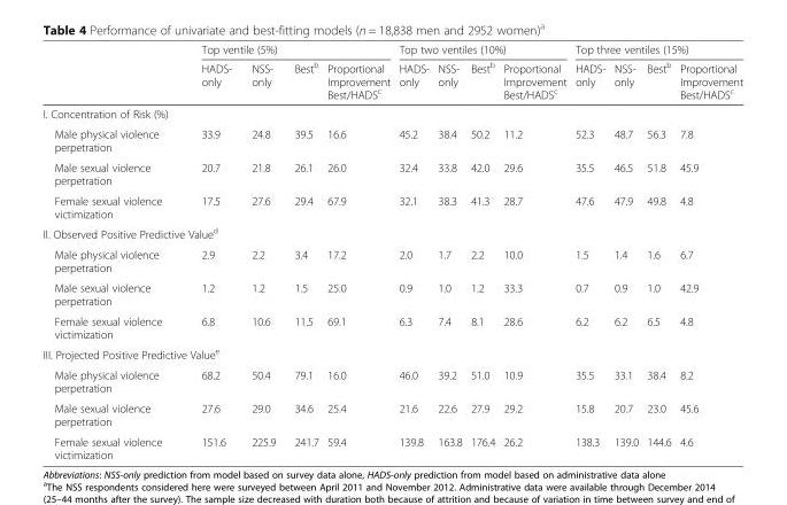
<table><thead><tr><td rowspan="2"></td><td colspan="4">Top ventile (5%)</td><td colspan="4">Top two ventiles (10%)</td><td colspan="4">Top three ventiles (15%)</td></tr><tr><td>HADS- only</td><td>NSS- only</td><td>Best<sup>b</sup></td><td>Proportional Improvement Best/HADS<sup>c</sup></td><td>HADS- only</td><td>NSS- only</td><td>Best<sup>b</sup></td><td>Proportional Improvement Best/HADS<sup>c</sup></td><td>HADS- only</td><td>NSS- only</td><td>Best<sup>b</sup></td><td>Proportional Improvement Best/HADS<sup>c</sup></td></tr></thead><tbody><tr><td colspan="13">I. Concentration of Risk (%)</td></tr><tr><td>Male physical violence perpetration</td><td>33.9</td><td>24.8</td><td>39.5</td><td>16.6</td><td>45.2</td><td>38.4</td><td>50.2</td><td>11.2</td><td>52.3</td><td>48.7</td><td>56.3</td><td>7.8</td></tr><tr><td>Male sexual violence perpetration</td><td>20.7</td><td>21.8</td><td>26.1</td><td>26.0</td><td>32.4</td><td>33.8</td><td>42.0</td><td>29.6</td><td>35.5</td><td>46.5</td><td>51.8</td><td>45.9</td></tr><tr><td>Female sexual violence victimization</td><td>17.5</td><td>27.6</td><td>29.4</td><td>67.9</td><td>32.1</td><td>38.3</td><td>41.3</td><td>28.7</td><td>47.6</td><td>47.9</td><td>49.8</td><td>4.8</td></tr><tr><td colspan="13">II. Observed Positive Predictive Value<sup>d</sup></td></tr><tr><td>Male physical violence perpetration</td><td>2.9</td><td>2.2</td><td>3.4</td><td>17.2</td><td>2.0</td><td>1.7</td><td>2.2</td><td>10.0</td><td>1.5</td><td>1.4</td><td>1.6</td><td>6.7</td></tr><tr><td>Male sexual violence perpetration</td><td>1.2</td><td>1.2</td><td>1.5</td><td>25.0</td><td>0.9</td><td>1.0</td><td>1.2</td><td>33.3</td><td>0.7</td><td>0.9</td><td>1.0</td><td>42.9</td></tr><tr><td>Female sexual violence victimization</td><td>6.8</td><td>10.6</td><td>11.5</td><td>69.1</td><td>6.3</td><td>7.4</td><td>8.1</td><td>28.6</td><td>6.2</td><td>6.2</td><td>6.5</td><td>4.8</td></tr><tr><td colspan="13">III. Projected Positive Predictive Value<sup>e</sup></td></tr><tr><td>Male physical violence perpetration</td><td>68.2</td><td>50.4</td><td>79.1</td><td>16.0</td><td>46.0</td><td>39.2</td><td>51.0</td><td>10.9</td><td>35.5</td><td>33.1</td><td>38.4</td><td>8.2</td></tr><tr><td>Male sexual violence perpetration</td><td>27.6</td><td>29.0</td><td>34.6</td><td>25.4</td><td>21.6</td><td>22.6</td><td>27.9</td><td>29.2</td><td>15.8</td><td>20.7</td><td>23.0</td><td>45.6</td></tr><tr><td>Female sexual violence victimization</td><td>151.6</td><td>225.9</td><td>241.7</td><td>59.4</td><td>139.8</td><td>163.8</td><td>176.4</td><td>26.2</td><td>138.3</td><td>139.0</td><td>144.6</td><td>4.6</td></tr></tbody></table>